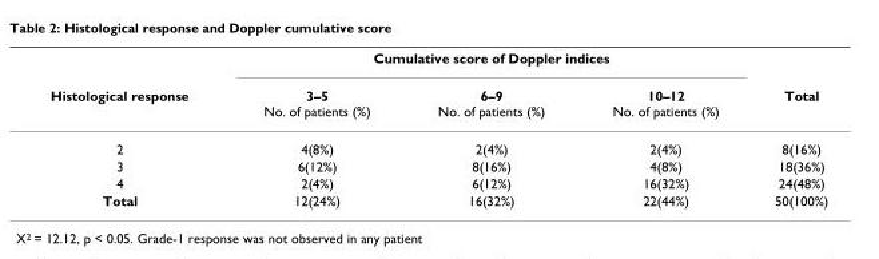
<table><thead><tr><td rowspan="2">Histological response</td><td colspan="3">Cumulative score of Doppler indices</td><td rowspan="2">Total</td></tr><tr><td>3–5 No. of patients (%)</td><td>6–9 No. of patients (%)</td><td>10–12 No. of patients (%)</td></tr></thead><tbody><tr><td>2</td><td>4(8%)</td><td>2(4%)</td><td>2(4%)</td><td>8(16%)</td></tr><tr><td>3</td><td>6(12%)</td><td>8(16%)</td><td>4(8%)</td><td>18(36%)</td></tr><tr><td>4</td><td>2(4%)</td><td>6(12%)</td><td>16(32%)</td><td>24(48%)</td></tr><tr><td>Total</td><td>12(24%)</td><td>16(32%)</td><td>22(44%)</td><td>50(100%)</td></tr></tbody></table>